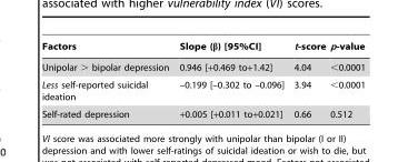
<table><thead><tr><td>Factors</td><td>Slope (β) [95%CI]</td><td>t-score</td><td>p-value</td></tr></thead><tbody><tr><td>Unipolar &gt; bipolar depression</td><td>0.946 [+0.469 to+1.42]</td><td>4.04</td><td>&lt;0.0001</td></tr><tr><td>Less self-reported suicidal ideation</td><td>–0.199 [–0.302 to –0.096]</td><td>3.94</td><td>&lt;0.0001</td></tr><tr><td>Self-rated depression</td><td>+0.005 [+0.011 to+0.021]</td><td>0.66</td><td>0.512</td></tr></tbody></table>